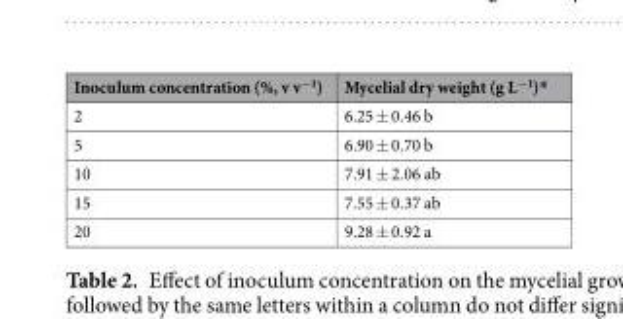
<table><thead><tr><td>Inoculum concentration (%, v v<sup>−1</sup>)</td><td>Mycelial dry weight (g L<sup>−1</sup>)*</td></tr></thead><tbody><tr><td>2</td><td>6.25 ± 0.46 b</td></tr><tr><td>5</td><td>6.90 ± 0.70 b</td></tr><tr><td>10</td><td>7.91 ± 2.06 ab</td></tr><tr><td>15</td><td>7.55 ± 0.37 ab</td></tr><tr><td>20</td><td>9.28 ± 0.92 a</td></tr></tbody></table>